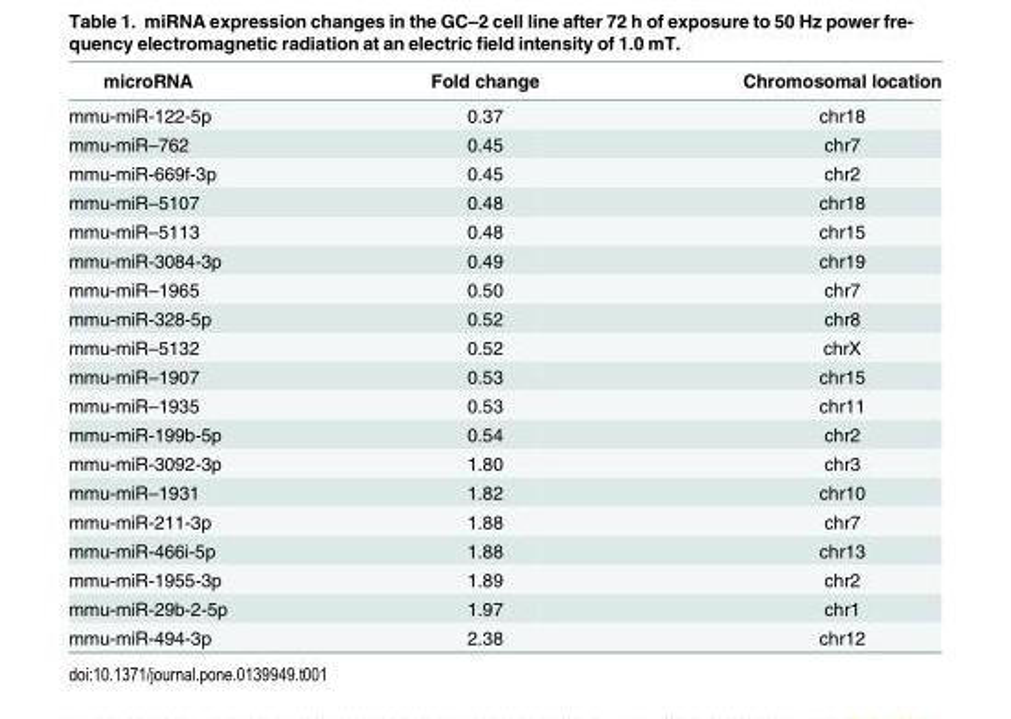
<table><thead><tr><td>microRNA</td><td>Fold change</td><td>Chromosomal location</td></tr></thead><tbody><tr><td>mmu-miR-122-5p</td><td>0.37</td><td>chr18</td></tr><tr><td>mmu-miR–762</td><td>0.45</td><td>chr7</td></tr><tr><td>mmu-miR-669f-3p</td><td>0.45</td><td>chr2</td></tr><tr><td>mmu-miR–5107</td><td>0.48</td><td>chr18</td></tr><tr><td>mmu-miR–5113</td><td>0.48</td><td>chr15</td></tr><tr><td>mmu-miR-3084-3p</td><td>0.49</td><td>chr19</td></tr><tr><td>mmu-miR–1965</td><td>0.50</td><td>chr7</td></tr><tr><td>mmu-miR-328-5p</td><td>0.52</td><td>chr8</td></tr><tr><td>mmu-miR–5132</td><td>0.52</td><td>chrX</td></tr><tr><td>mmu-miR–1907</td><td>0.53</td><td>chr15</td></tr><tr><td>mmu-miR–1935</td><td>0.53</td><td>chr11</td></tr><tr><td>mmu-miR-199b-5p</td><td>0.54</td><td>chr2</td></tr><tr><td>mmu-miR-3092-3p</td><td>1.80</td><td>chr3</td></tr><tr><td>mmu-miR–1931</td><td>1.82</td><td>chr10</td></tr><tr><td>mmu-miR-211-3p</td><td>1.88</td><td>chr7</td></tr><tr><td>mmu-miR-466i-5p</td><td>1.88</td><td>chr13</td></tr><tr><td>mmu-miR-1955-3p</td><td>1.89</td><td>chr2</td></tr><tr><td>mmu-miR-29b-2-5p</td><td>1.97</td><td>chr1</td></tr><tr><td>mmu-miR-494-3p</td><td>2.38</td><td>chr12</td></tr></tbody></table>